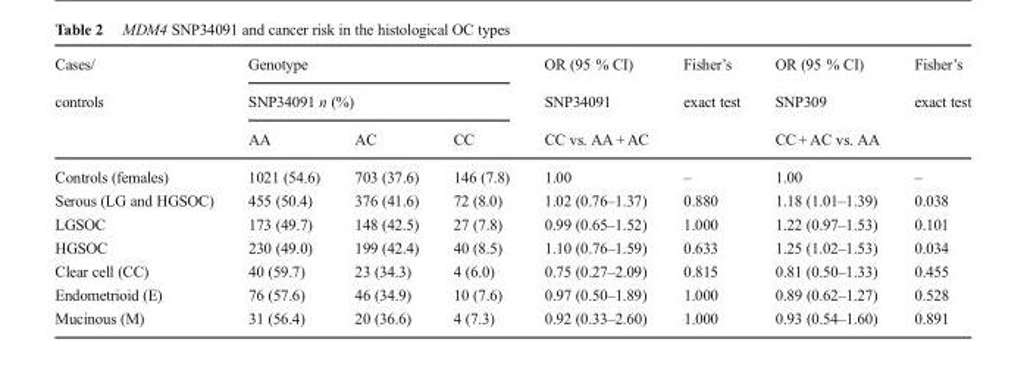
<table><thead><tr><td rowspan="3">Cases/ controls</td><td rowspan="2" colspan="3">Genotype SNP34091 n (%)</td><td rowspan="3">OR (95 % CI) SNP34091 CC vs. AA + AC</td><td rowspan="3">Fisher’s exact test</td><td rowspan="3">OR (95 % CI) SNP309 CC + AC vs. AA</td><td rowspan="3">Fisher’s exact test</td></tr><tr></tr><tr><td>AA</td><td>AC</td><td>CC</td></tr></thead><tbody><tr><td>Controls (females)</td><td>1021 (54.6)</td><td>703 (37.6)</td><td>146 (7.8)</td><td>1.00</td><td>–</td><td>1.00</td><td>–</td></tr><tr><td>Serous (LG and HGSOC)</td><td>455 (50.4)</td><td>376 (41.6)</td><td>72 (8.0)</td><td>1.02 (0.76–1.37)</td><td>0.880</td><td>1.18 (1.01–1.39)</td><td>0.038</td></tr><tr><td>LGSOC</td><td>173 (49.7)</td><td>148 (42.5)</td><td>27 (7.8)</td><td>0.99 (0.65–1.52)</td><td>1.000</td><td>1.22 (0.97–1.53)</td><td>0.101</td></tr><tr><td>HGSOC</td><td>230 (49.0)</td><td>199 (42.4)</td><td>40 (8.5)</td><td>1.10 (0.76–1.59)</td><td>0.633</td><td>1.25 (1.02–1.53)</td><td>0.034</td></tr><tr><td>Clear cell (CC)</td><td>40 (59.7)</td><td>23 (34.3)</td><td>4 (6.0)</td><td>0.75 (0.27–2.09)</td><td>0.815</td><td>0.81 (0.50–1.33)</td><td>0.455</td></tr><tr><td>Endometrioid (E)</td><td>76 (57.6)</td><td>46 (34.9)</td><td>10 (7.6)</td><td>0.97 (0.50–1.89)</td><td>1.000</td><td>0.89 (0.62–1.27)</td><td>0.528</td></tr><tr><td>Mucinous (M)</td><td>31 (56.4)</td><td>20 (36.6)</td><td>4 (7.3)</td><td>0.92 (0.33–2.60)</td><td>1.000</td><td>0.93 (0.54–1.60)</td><td>0.891</td></tr></tbody></table>